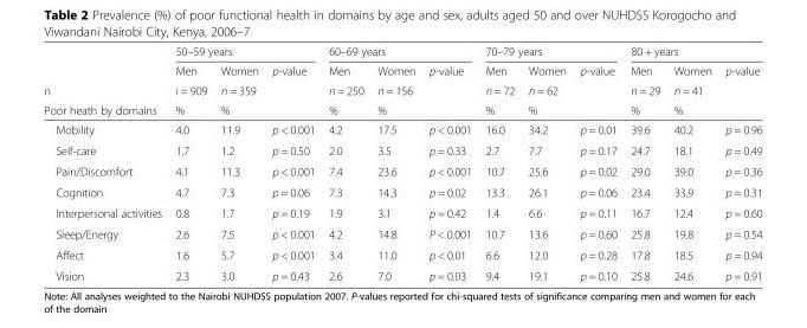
<table><thead><tr><td rowspan="4">n Poor heath by domains</td><td colspan="3">50–59 years</td><td colspan="3">60–69 years</td><td colspan="3">70–79 years</td><td colspan="3">80 + years</td></tr><tr><td rowspan="3">Men i = 909 %</td><td rowspan="3">Women n = 359 %</td><td rowspan="3">p-value</td><td rowspan="3">Men n = 250 %</td><td rowspan="3">Women n = 156 %</td><td rowspan="3">p-value</td><td rowspan="3">Men n = 72 %</td><td rowspan="3">Women n = 62 %</td><td rowspan="3">p-value</td><td rowspan="3">Men n = 29 %</td><td rowspan="3">Women n = 41 %</td><td rowspan="3">p-value</td></tr><tr></tr><tr></tr></thead><tbody><tr><td>Mobility</td><td>4.0</td><td>11.9</td><td>p &lt; 0.001</td><td>4.2</td><td>17.5</td><td>p &lt; 0.001</td><td>16.0</td><td>34.2</td><td>p = 0.01</td><td>39.6</td><td>40.2</td><td>p = 0.96</td></tr><tr><td>Self-care</td><td>1.7</td><td>1.2</td><td>p = 0.50</td><td>2.0</td><td>3.5</td><td>p = 0.33</td><td>2.7</td><td>7.7</td><td>p = 0.17</td><td>24.7</td><td>18.1</td><td>p = 0.49</td></tr><tr><td>Pain/Discomfort</td><td>4.1</td><td>11.3</td><td>p &lt; 0.001</td><td>7.4</td><td>23.6</td><td>p &lt; 0.001</td><td>10.7</td><td>25.6</td><td>p = 0.02</td><td>29.0</td><td>39.0</td><td>p = 0.36</td></tr><tr><td>Cognition</td><td>4.7</td><td>7.3</td><td>p = 0.06</td><td>7.3</td><td>14.3</td><td>p = 0.02</td><td>13.3</td><td>26.1</td><td>p = 0.06</td><td>23.4</td><td>33.9</td><td>p = 0.31</td></tr><tr><td>Interpersonal activities</td><td>0.8</td><td>1.7</td><td>p = 0.19</td><td>1.9</td><td>3.1</td><td>p = 0.42</td><td>1.4</td><td>6.6</td><td>p = 0.11</td><td>16.7</td><td>12.4</td><td>p = 0.60</td></tr><tr><td>Sleep/Energy</td><td>2.6</td><td>7.5</td><td>p &lt; 0.001</td><td>4.2</td><td>14.8</td><td>P &lt; 0.001</td><td>10.7</td><td>13.6</td><td>p = 0.60</td><td>25.8</td><td>19.8</td><td>p = 0.54</td></tr><tr><td>Affect</td><td>1.6</td><td>5.7</td><td>p &lt; 0.001</td><td>3.4</td><td>11.0</td><td>p &lt; 0.01</td><td>6.6</td><td>12.0</td><td>p = 0.28</td><td>17.8</td><td>18.5</td><td>p = 0.94</td></tr><tr><td>Vision</td><td>2.3</td><td>3.0</td><td>p = 0.43</td><td>2.6</td><td>7.0</td><td>p = 0.03</td><td>9.4</td><td>19.1</td><td>p = 0.10</td><td>25.8</td><td>24.6</td><td>p = 0.91</td></tr></tbody></table>